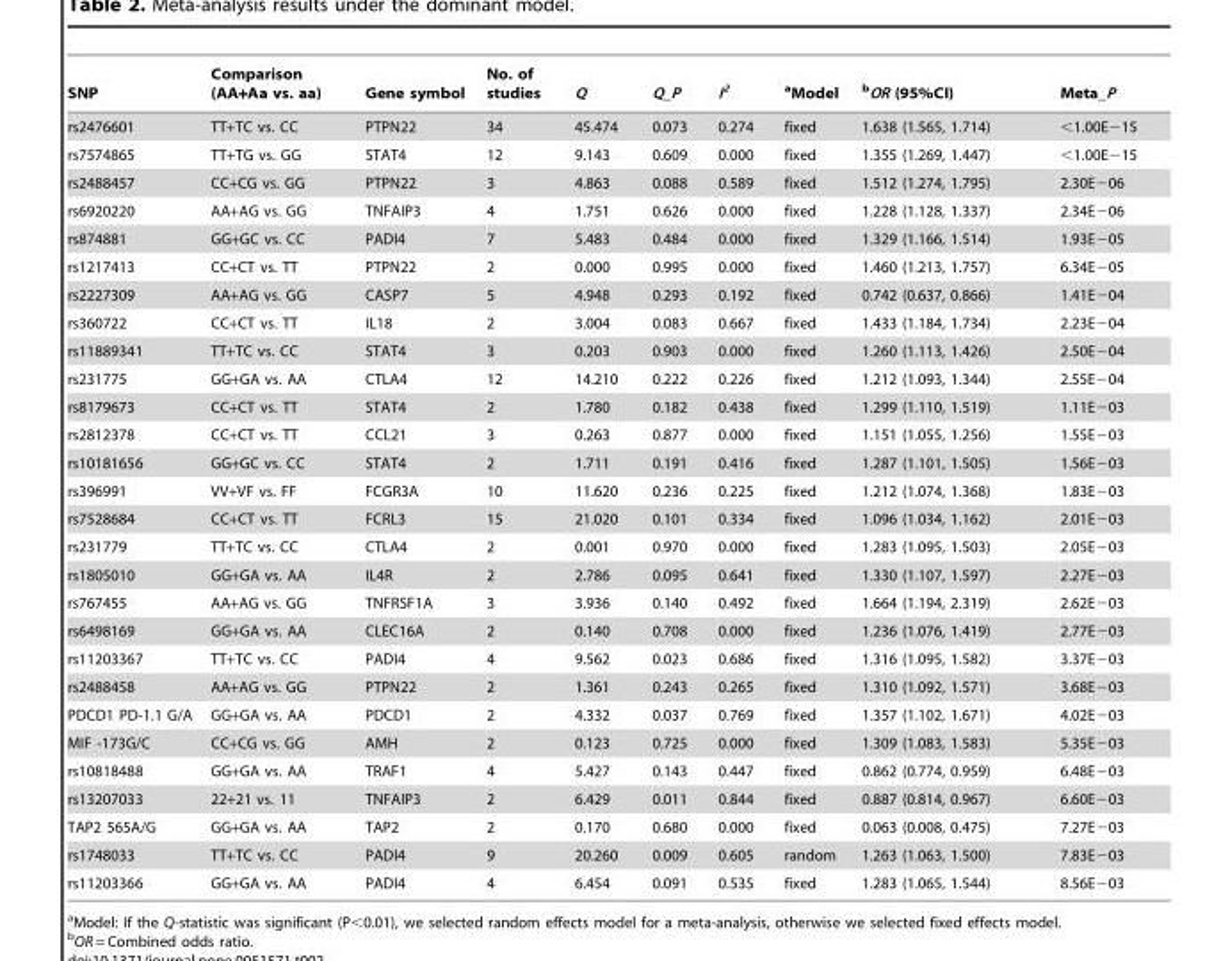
<table><thead><tr><td>SNP</td><td>Comparison (AA+Aa vs. aa)</td><td>Gene symbol</td><td>No. of studies</td><td>Q</td><td>Q_P</td><td>I<sup>2</sup></td><td>aModel</td><td>bOR (95%CI)</td><td>Meta_P</td></tr></thead><tbody><tr><td>rs2476601</td><td>TT+TC vs. CC</td><td>PTPN22</td><td>34</td><td>45.474</td><td>0.073</td><td>0.274</td><td>fixed</td><td>1.638 (1.565, 1.714)</td><td>&lt;1.00E−15</td></tr><tr><td>rs7574865</td><td>TT+TG vs. GG</td><td>STAT4</td><td>12</td><td>9.143</td><td>0.609</td><td>0.000</td><td>fixed</td><td>1.355 (1.269, 1.447)</td><td>&lt;1.00E−15</td></tr><tr><td>rs2488457</td><td>CC+CG vs. GG</td><td>PTPN22</td><td>3</td><td>4.863</td><td>0.088</td><td>0.589</td><td>fixed</td><td>1.512 (1.274, 1.795)</td><td>2.30E−06</td></tr><tr><td>rs6920220</td><td>AA+AG vs. GG</td><td>TNFAIP3</td><td>4</td><td>1.751</td><td>0.626</td><td>0.000</td><td>fixed</td><td>1.228 (1.128, 1.337)</td><td>2.34E−06</td></tr><tr><td>rs874881</td><td>GG+GC vs. CC</td><td>PADI4</td><td>7</td><td>5.483</td><td>0.484</td><td>0.000</td><td>fixed</td><td>1.329 (1.166, 1.514)</td><td>1.93E−05</td></tr><tr><td>rs1217413</td><td>CC+CT vs. TT</td><td>PTPN22</td><td>2</td><td>0.000</td><td>0.995</td><td>0.000</td><td>fixed</td><td>1.460 (1.213, 1.757)</td><td>6.34E−05</td></tr><tr><td>rs2227309</td><td>AA+AG vs. GG</td><td>CASP7</td><td>5</td><td>4.948</td><td>0.293</td><td>0.192</td><td>fixed</td><td>0.742 (0.637, 0.866)</td><td>1.41E−04</td></tr><tr><td>rs360722</td><td>CC+CT vs. TT</td><td>IL18</td><td>2</td><td>3.004</td><td>0.083</td><td>0.667</td><td>fixed</td><td>1.433 (1.184, 1.734)</td><td>2.23E−04</td></tr><tr><td>rs11889341</td><td>TT+TC vs. CC</td><td>STAT4</td><td>3</td><td>0.203</td><td>0.903</td><td>0.000</td><td>fixed</td><td>1.260 (1.113, 1.426)</td><td>2.50E−04</td></tr><tr><td>rs231775</td><td>GG+GA vs. AA</td><td>CTLA4</td><td>12</td><td>14.210</td><td>0.222</td><td>0.226</td><td>fixed</td><td>1.212 (1.093, 1.344)</td><td>2.55E−04</td></tr><tr><td>rs8179673</td><td>CC+CT vs. TT</td><td>STAT4</td><td>2</td><td>1.780</td><td>0.182</td><td>0.438</td><td>fixed</td><td>1.299 (1.110, 1.519)</td><td>1.11E−03</td></tr><tr><td>rs2812378</td><td>CC+CT vs. TT</td><td>CCL21</td><td>3</td><td>0.263</td><td>0.877</td><td>0.000</td><td>fixed</td><td>1.151 (1.055, 1.256)</td><td>1.55E−03</td></tr><tr><td>rs10181656</td><td>GG+GC vs. CC</td><td>STAT4</td><td>2</td><td>1.711</td><td>0.191</td><td>0.416</td><td>fixed</td><td>1.287 (1.101, 1.505)</td><td>1.56E−03</td></tr><tr><td>rs396991</td><td>VV+VF vs. FF</td><td>FCGR3A</td><td>10</td><td>11.620</td><td>0.236</td><td>0.225</td><td>fixed</td><td>1.212 (1.074, 1.368)</td><td>1.83E−03</td></tr><tr><td>rs7528684</td><td>CC+CT vs. TT</td><td>FCRL3</td><td>15</td><td>21.020</td><td>0.101</td><td>0.334</td><td>fixed</td><td>1.096 (1.034, 1.162)</td><td>2.01E−03</td></tr><tr><td>rs231779</td><td>TT+TC vs. CC</td><td>CTLA4</td><td>2</td><td>0.001</td><td>0.970</td><td>0.000</td><td>fixed</td><td>1.283 (1.095, 1.503)</td><td>2.05E−03</td></tr><tr><td>rs1805010</td><td>GG+GA vs. AA</td><td>IL4R</td><td>2</td><td>2.786</td><td>0.095</td><td>0.641</td><td>fixed</td><td>1.330 (1.107, 1.597)</td><td>2.27E−03</td></tr><tr><td>rs767455</td><td>AA+AG vs. GG</td><td>TNFRSF1A</td><td>3</td><td>3.936</td><td>0.140</td><td>0.492</td><td>fixed</td><td>1.664 (1.194, 2.319)</td><td>2.62E−03</td></tr><tr><td>rs6498169</td><td>GG+GA vs. AA</td><td>CLEC16A</td><td>2</td><td>0.140</td><td>0.708</td><td>0.000</td><td>fixed</td><td>1.236 (1.076, 1.419)</td><td>2.77E−03</td></tr><tr><td>rs11203367</td><td>TT+TC vs. CC</td><td>PADI4</td><td>4</td><td>9.562</td><td>0.023</td><td>0.686</td><td>fixed</td><td>1.316 (1.095, 1.582)</td><td>3.37E−03</td></tr><tr><td>rs2488458</td><td>AA+AG vs. GG</td><td>PTPN22</td><td>2</td><td>1.361</td><td>0.243</td><td>0.265</td><td>fixed</td><td>1.310 (1.092, 1.571)</td><td>3.68E−03</td></tr><tr><td>PDCD1 PD-1.1 G/A</td><td>GG+GA vs. AA</td><td>PDCD1</td><td>2</td><td>4.332</td><td>0.037</td><td>0.769</td><td>fixed</td><td>1.357 (1.102, 1.671)</td><td>4.02E−03</td></tr><tr><td>MIF -173G/C</td><td>CC+CG vs. GG</td><td>AMH</td><td>2</td><td>0.123</td><td>0.725</td><td>0.000</td><td>fixed</td><td>1.309 (1.083, 1.583)</td><td>5.35E−03</td></tr><tr><td>rs10818488</td><td>GG+GA vs. AA</td><td>TRAF1</td><td>4</td><td>5.427</td><td>0.143</td><td>0.447</td><td>fixed</td><td>0.862 (0.774, 0.959)</td><td>6.48E−03</td></tr><tr><td>rs13207033</td><td>22+21 vs. 11</td><td>TNFAIP3</td><td>2</td><td>6.429</td><td>0.011</td><td>0.844</td><td>fixed</td><td>0.887 (0.814, 0.967)</td><td>6.60E−03</td></tr><tr><td>TAP2 565A/G</td><td>GG+GA vs. AA</td><td>TAP2</td><td>2</td><td>0.170</td><td>0.680</td><td>0.000</td><td>fixed</td><td>0.063 (0.008, 0.475)</td><td>7.27E−03</td></tr><tr><td>rs1748033</td><td>TT+TC vs. CC</td><td>PADI4</td><td>9</td><td>20.260</td><td>0.009</td><td>0.605</td><td>random</td><td>1.263 (1.063, 1.500)</td><td>7.83E−03</td></tr><tr><td>rs11203366</td><td>GG+GA vs. AA</td><td>PADI4</td><td>4</td><td>6.454</td><td>0.091</td><td>0.535</td><td>fixed</td><td>1.283 (1.065, 1.544)</td><td>8.56E−03</td></tr></tbody></table>